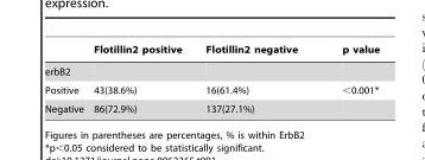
<table><thead><tr><td></td><td>Flotillin2 positive</td><td>Flotillin2 negative</td><td>p value</td></tr></thead><tbody><tr><td colspan="4">erbB2</td></tr><tr><td>Positive</td><td>43(38.6%)</td><td>16(61.4%)</td><td>&lt;0.001*</td></tr><tr><td>Negative</td><td>86(72.9%)</td><td>137(27.1%)</td><td></td></tr></tbody></table>